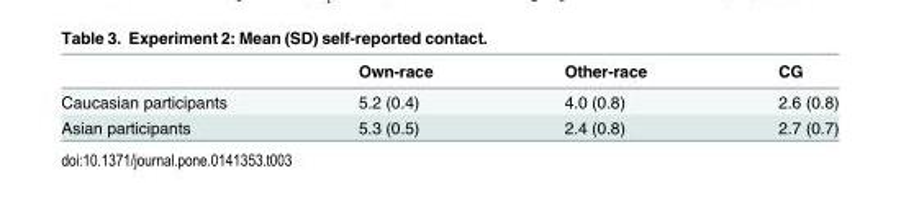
<table><thead><tr><td></td><td>Own-race</td><td>Other-race</td><td>CG</td></tr></thead><tbody><tr><td>Caucasian participants</td><td>5.2 (0.4)</td><td>4.0 (0.8)</td><td>2.6 (0.8)</td></tr><tr><td>Asian participants</td><td>5.3 (0.5)</td><td>2.4 (0.8)</td><td>2.7 (0.7)</td></tr></tbody></table>